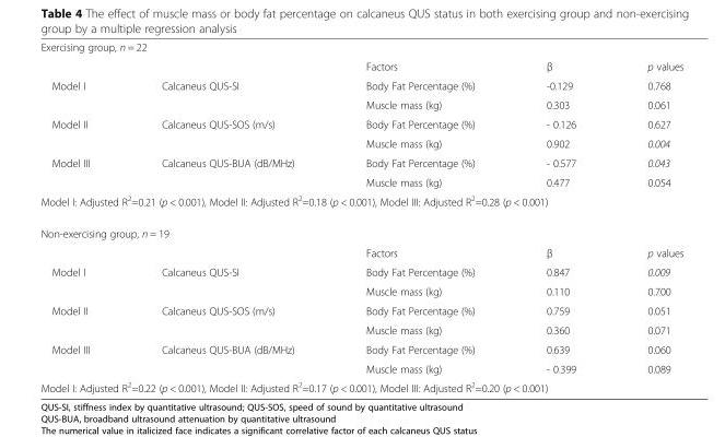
<table><tbody><tr><td colspan="5">Exercising group, n = 22</td></tr><tr><td></td><td></td><td>Factors</td><td>β</td><td>p values</td></tr><tr><td rowspan="2">Model I</td><td>Calcaneus QUS-SI</td><td>Body Fat Percentage (%)</td><td>-0.129</td><td>0.768</td></tr><tr><td></td><td>Muscle mass (kg)</td><td>0.303</td><td>0.061</td></tr><tr><td rowspan="2">Model II</td><td>Calcaneus QUS-SOS (m/s)</td><td>Body Fat Percentage (%)</td><td>- 0.126</td><td>0.627</td></tr><tr><td></td><td>Muscle mass (kg)</td><td>0.902</td><td>0.004</td></tr><tr><td rowspan="2">Model III</td><td>Calcaneus QUS-BUA (dB/MHz)</td><td>Body Fat Percentage (%)</td><td>- 0.577</td><td>0.043</td></tr><tr><td></td><td>Muscle mass (kg)</td><td>0.477</td><td>0.054</td></tr><tr><td colspan="5">Model I: Adjusted R<sup>2</sup>=0.21 (p &lt; 0.001), Model II: Adjusted R<sup>2</sup>=0.18 (p &lt; 0.001), Model III: Adjusted R<sup>2</sup>=0.28 (p &lt; 0.001)</td></tr><tr><td colspan="5">Non-exercising group, n = 19</td></tr><tr><td></td><td></td><td>Factors</td><td>β</td><td>p values</td></tr><tr><td rowspan="2">Model I</td><td>Calcaneus QUS-SI</td><td>Body Fat Percentage (%)</td><td>0.847</td><td>0.009</td></tr><tr><td></td><td>Muscle mass (kg)</td><td>0.110</td><td>0.700</td></tr><tr><td rowspan="2">Model II</td><td>Calcaneus QUS-SOS (m/s)</td><td>Body Fat Percentage (%)</td><td>0.759</td><td>0.051</td></tr><tr><td></td><td>Muscle mass (kg)</td><td>0.360</td><td>0.071</td></tr><tr><td rowspan="2">Model III</td><td>Calcaneus QUS-BUA (dB/MHz)</td><td>Body Fat Percentage (%)</td><td>0.639</td><td>0.060</td></tr><tr><td></td><td>Muscle mass (kg)</td><td>- 0.399</td><td>0.089</td></tr><tr><td colspan="5">Model I: Adjusted R<sup>2</sup>=0.22 (p &lt; 0.001), Model II: Adjusted R<sup>2</sup>=0.17 (p &lt; 0.001), Model III: Adjusted R<sup>2</sup>=0.20 (p &lt; 0.001)</td></tr></tbody></table>